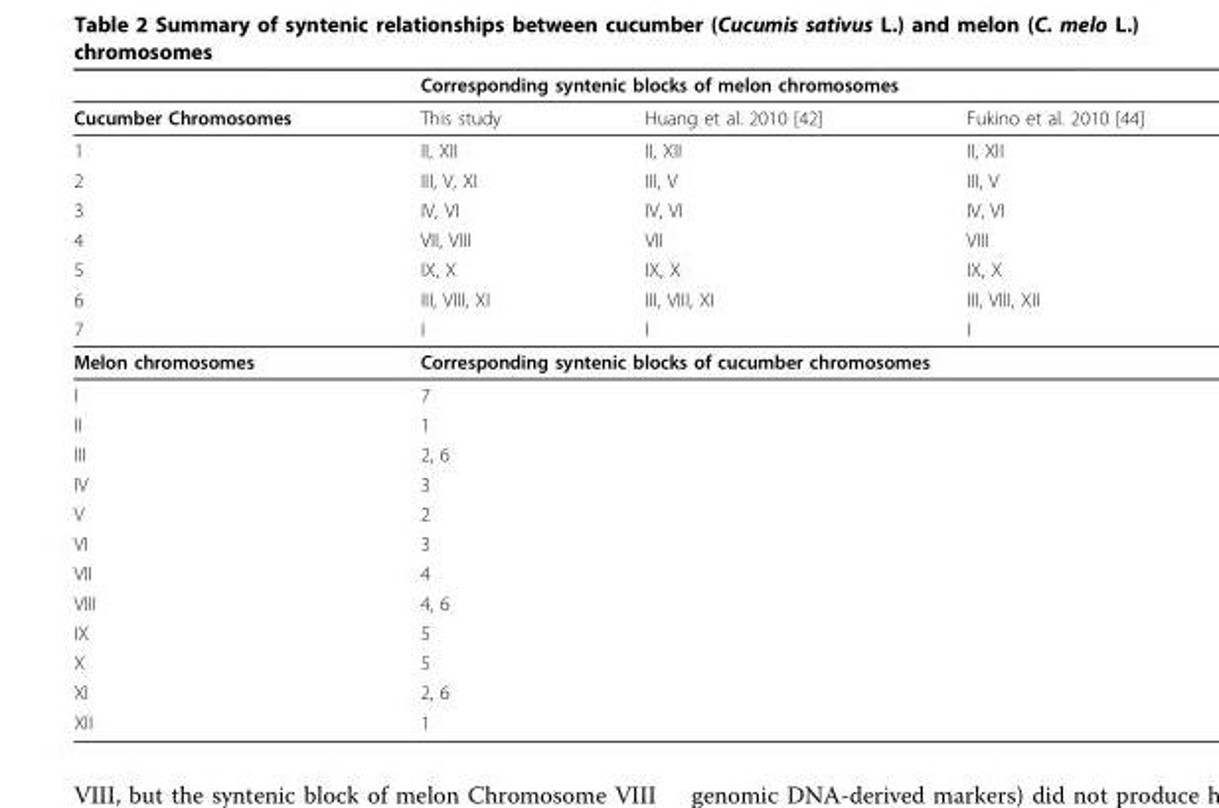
<table><thead><tr><td rowspan="2">Cucumber Chromosomes</td><td colspan="3">Corresponding syntenic blocks of melon chromosomes</td></tr><tr><td>This study</td><td>Huang et al. 2010 [42]</td><td>Fukino et al. 2010 [44]</td></tr></thead><tbody><tr><td>1</td><td>II, XII</td><td>II, XII</td><td>II, XII</td></tr><tr><td>2</td><td>III, V, XI</td><td>III, V</td><td>III, V</td></tr><tr><td>3</td><td>IV, VI</td><td>IV, VI</td><td>IV, VI</td></tr><tr><td>4</td><td>VII, VIII</td><td>VII</td><td>VIII</td></tr><tr><td>5</td><td>IX, X</td><td>IX, X</td><td>IX, X</td></tr><tr><td>6</td><td>III, VIII, XI</td><td>III, VIII, XI</td><td>III, VIII, XII</td></tr><tr><td>7</td><td>I</td><td>I</td><td>I</td></tr><tr><td>Melon chromosomes</td><td colspan="3">Corresponding syntenic blocks of cucumber chromosomes</td></tr><tr><td>I</td><td>7</td><td></td><td></td></tr><tr><td>II</td><td>1</td><td></td><td></td></tr><tr><td>III</td><td>2, 6</td><td></td><td></td></tr><tr><td>IV</td><td>3</td><td></td><td></td></tr><tr><td>V</td><td>2</td><td></td><td></td></tr><tr><td>VI</td><td>3</td><td></td><td></td></tr><tr><td>VII</td><td>4</td><td></td><td></td></tr><tr><td>VIII</td><td>4, 6</td><td></td><td></td></tr><tr><td>IX</td><td>5</td><td></td><td></td></tr><tr><td>X</td><td>5</td><td></td><td></td></tr><tr><td>XI</td><td>2, 6</td><td></td><td></td></tr><tr><td>XII</td><td>1</td><td></td><td></td></tr></tbody></table>